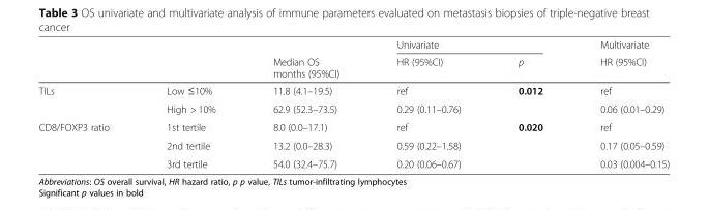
<table><thead><tr><td rowspan="2"></td><td rowspan="2"></td><td rowspan="2">Median OS months (95%CI)</td><td colspan="2">Univariate</td><td rowspan="2">Multivariate HR (95%CI)</td></tr><tr><td>HR (95%CI)</td><td>p</td></tr></thead><tbody><tr><td rowspan="2">TILs</td><td>Low ≤10%</td><td>11.8 (4.1–19.5)</td><td>ref</td><td rowspan="2">0.012</td><td>ref</td></tr><tr><td>High &gt; 10%</td><td>62.9 (52.3–73.5)</td><td>0.29 (0.11–0.76)</td><td>0.06 (0.01–0.29)</td></tr><tr><td rowspan="3">CD8/FOXP3 ratio</td><td>1st tertile</td><td>8.0 (0.0–17.1)</td><td>ref</td><td rowspan="3">0.020</td><td>ref</td></tr><tr><td>2nd tertile</td><td>13.2 (0.0–28.3)</td><td>0.59 (0.22–1.58)</td><td>0.17 (0.05–0.59)</td></tr><tr><td>3rd tertile</td><td>54.0 (32.4–75.7)</td><td>0.20 (0.06–0.67)</td><td>0.03 (0.004–0.15)</td></tr></tbody></table>